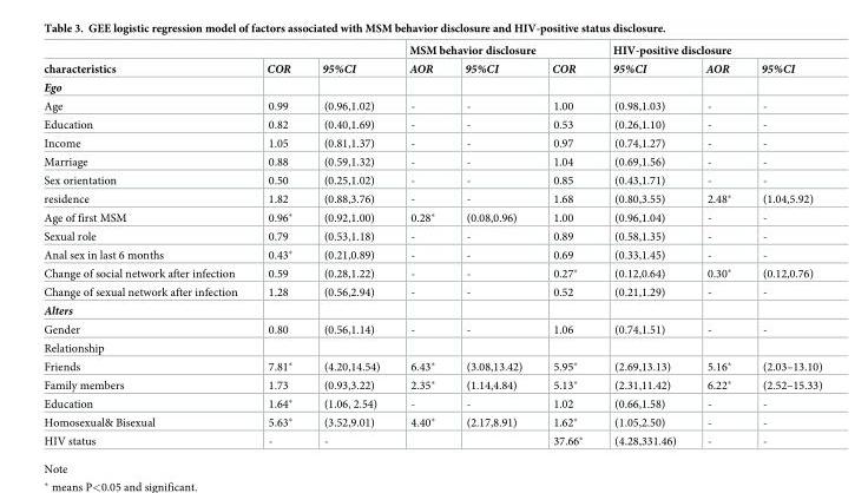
<table><thead><tr><td rowspan="2">characteristics</td><td rowspan="2">COR</td><td rowspan="2">95%CI</td><td colspan="3">MSM behavior disclosure</td><td colspan="3">HIV-positive disclosure</td></tr><tr><td>AOR</td><td>95%CI</td><td>COR</td><td>95%CI</td><td>AOR</td><td>95%CI</td></tr></thead><tbody><tr><td colspan="9">Ego</td></tr><tr><td>Age</td><td>0.99</td><td>(0.96,1.02)</td><td>-</td><td>-</td><td>1.00</td><td>(0.98,1.03)</td><td>-</td><td>-</td></tr><tr><td>Education</td><td>0.82</td><td>(0.40,1.69)</td><td>-</td><td>-</td><td>0.53</td><td>(0.26,1.10)</td><td>-</td><td>-</td></tr><tr><td>Income</td><td>1.05</td><td>(0.81,1.37)</td><td>-</td><td>-</td><td>0.97</td><td>(0.74,1.27)</td><td>-</td><td>-</td></tr><tr><td>Marriage</td><td>0.88</td><td>(0.59,1.32)</td><td>-</td><td>-</td><td>1.04</td><td>(0.69,1.56)</td><td>-</td><td>-</td></tr><tr><td>Sex orientation</td><td>0.50</td><td>(0.25,1.02)</td><td>-</td><td>-</td><td>0.85</td><td>(0.43,1.71)</td><td>-</td><td>-</td></tr><tr><td>residence</td><td>1.82</td><td>(0.88,3.76)</td><td>-</td><td>-</td><td>1.68</td><td>(0.80,3.55)</td><td>2.48*</td><td>(1.04,5.92)</td></tr><tr><td>Age of first MSM</td><td>0.96*</td><td>(0.92,1.00)</td><td>0.28*</td><td>(0.08,0.96)</td><td>1.00</td><td>(0.96,1.04)</td><td>-</td><td>-</td></tr><tr><td>Sexual role</td><td>0.79</td><td>(0.53,1.18)</td><td>-</td><td>-</td><td>0.89</td><td>(0.58,1.35)</td><td>-</td><td>-</td></tr><tr><td>Anal sex in last 6 months</td><td>0.43*</td><td>(0.21,0.89)</td><td>-</td><td>-</td><td>0.69</td><td>(0.33,1.45)</td><td>-</td><td>-</td></tr><tr><td>Change of social network after infection</td><td>0.59</td><td>(0.28,1.22)</td><td>-</td><td>-</td><td>0.27*</td><td>(0.12,0.64)</td><td>0.30*</td><td>(0.12,0.76)</td></tr><tr><td>Change of sexual network after infection</td><td>1.28</td><td>(0.56,2.94)</td><td>-</td><td>-</td><td>0.52</td><td>(0.21,1.29)</td><td>-</td><td>-</td></tr><tr><td colspan="9">Alters</td></tr><tr><td>Gender</td><td>0.80</td><td>(0.56,1.14)</td><td>-</td><td>-</td><td>1.06</td><td>(0.74,1.51)</td><td>-</td><td>-</td></tr><tr><td colspan="9">Relationship</td></tr><tr><td>Friends</td><td>7.81*</td><td>(4.20,14.54)</td><td>6.43*</td><td>(3.08,13.42)</td><td>5.95*</td><td>(2.69,13.13)</td><td>5.16*</td><td>(2.03–13.10)</td></tr><tr><td>Family members</td><td>1.73</td><td>(0.93,3.22)</td><td>2.35*</td><td>(1.14,4.84)</td><td>5.13*</td><td>(2.31,11.42)</td><td>6.22*</td><td>(2.52–15.33)</td></tr><tr><td>Education</td><td>1.64*</td><td>(1.06, 2.54)</td><td>-</td><td>-</td><td>1.02</td><td>(0.66,1.58)</td><td>-</td><td>-</td></tr><tr><td>Homosexual&amp; Bisexual</td><td>5.63*</td><td>(3.52,9.01)</td><td>4.40*</td><td>(2.17,8.91)</td><td>1.62*</td><td>(1.05,2.50)</td><td>-</td><td>-</td></tr><tr><td>HIV status</td><td>-</td><td>-</td><td></td><td></td><td>37.66*</td><td>(4.28,331.46)</td><td>-</td><td>-</td></tr></tbody></table>